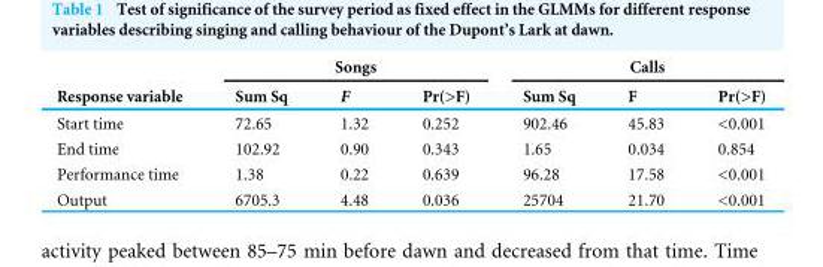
<table><thead><tr><td rowspan="2">Response variable</td><td colspan="3">Songs</td><td colspan="3">Calls</td></tr><tr><td>Sum Sq</td><td>F</td><td>Pr(&gt;F)</td><td>Sum Sq</td><td>F</td><td>Pr(&gt;F)</td></tr></thead><tbody><tr><td>Start time</td><td>72.65</td><td>1.32</td><td>0.252</td><td>902.46</td><td>45.83</td><td>&lt;0.001</td></tr><tr><td>End time</td><td>102.92</td><td>0.90</td><td>0.343</td><td>1.65</td><td>0.034</td><td>0.854</td></tr><tr><td>Performance time</td><td>1.38</td><td>0.22</td><td>0.639</td><td>96.28</td><td>17.58</td><td>&lt;0.001</td></tr><tr><td>Output</td><td>6705.3</td><td>4.48</td><td>0.036</td><td>25704</td><td>21.70</td><td>&lt;0.001</td></tr></tbody></table>